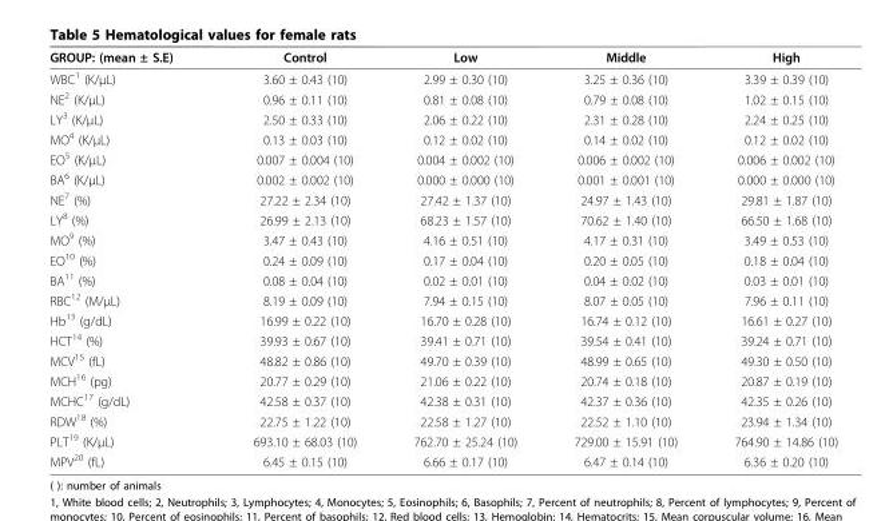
<table><thead><tr><td>GROUP: (mean ± S.E)</td><td>Control</td><td>Low</td><td>Middle</td><td>High</td></tr></thead><tbody><tr><td>WBC<sup>1</sup> (K/μL)</td><td>3.60 ± 0.43 (10)</td><td>2.99 ± 0.30 (10)</td><td>3.25 ± 0.36 (10)</td><td>3.39 ± 0.39 (10)</td></tr><tr><td>NE<sup>2</sup> (K/μL)</td><td>0.96 ± 0.11 (10)</td><td>0.81 ± 0.08 (10)</td><td>0.79 ± 0.08 (10)</td><td>1.02 ± 0.15 (10)</td></tr><tr><td>LY<sup>3</sup> (K/μL)</td><td>2.50 ± 0.33 (10)</td><td>2.06 ± 0.22 (10)</td><td>2.31 ± 0.28 (10)</td><td>2.24 ± 0.25 (10)</td></tr><tr><td>MO<sup>4</sup> (K/μL)</td><td>0.13 ± 0.03 (10)</td><td>0.12 ± 0.02 (10)</td><td>0.14 ± 0.02 (10)</td><td>0.12 ± 0.02 (10)</td></tr><tr><td>EO<sup>5</sup> (K/μL)</td><td>0.007 ± 0.004 (10)</td><td>0.004 ± 0.002 (10)</td><td>0.006 ± 0.002 (10)</td><td>0.006 ± 0.002 (10)</td></tr><tr><td>BA<sup>6</sup> (K/μL)</td><td>0.002 ± 0.002 (10)</td><td>0.000 ± 0.000 (10)</td><td>0.001 ± 0.001 (10)</td><td>0.000 ± 0.000 (10)</td></tr><tr><td>NE<sup>7</sup> (%)</td><td>27.22 ± 2.34 (10)</td><td>27.42 ± 1.37 (10)</td><td>24.97 ± 1.43 (10)</td><td>29.81 ± 1.87 (10)</td></tr><tr><td>LY<sup>8</sup> (%)</td><td>26.99 ± 2.13 (10)</td><td>68.23 ± 1.57 (10)</td><td>70.62 ± 1.40 (10)</td><td>66.50 ± 1.68 (10)</td></tr><tr><td>MO<sup>9</sup> (%)</td><td>3.47 ± 0.43 (10)</td><td>4.16 ± 0.51 (10)</td><td>4.17 ± 0.31 (10)</td><td>3.49 ± 0.53 (10)</td></tr><tr><td>EO<sup>10</sup> (%)</td><td>0.24 ± 0.09 (10)</td><td>0.17 ± 0.04 (10)</td><td>0.20 ± 0.05 (10)</td><td>0.18 ± 0.04 (10)</td></tr><tr><td>BA<sup>11</sup> (%)</td><td>0.08 ± 0.04 (10)</td><td>0.02 ± 0.01 (10)</td><td>0.04 ± 0.02 (10)</td><td>0.03 ± 0.01 (10)</td></tr><tr><td>RBC<sup>12</sup> (M/μL)</td><td>8.19 ± 0.09 (10)</td><td>7.94 ± 0.15 (10)</td><td>8.07 ± 0.05 (10)</td><td>7.96 ± 0.11 (10)</td></tr><tr><td>Hb<sup>13</sup> (g/dL)</td><td>16.99 ± 0.22 (10)</td><td>16.70 ± 0.28 (10)</td><td>16.74 ± 0.12 (10)</td><td>16.61 ± 0.27 (10)</td></tr><tr><td>HCT<sup>14</sup> (%)</td><td>39.93 ± 0.67 (10)</td><td>39.41 ± 0.71 (10)</td><td>39.54 ± 0.41 (10)</td><td>39.24 ± 0.71 (10)</td></tr><tr><td>MCV<sup>15</sup> (fL)</td><td>48.82 ± 0.86 (10)</td><td>49.70 ± 0.39 (10)</td><td>48.99 ± 0.65 (10)</td><td>49.30 ± 0.50 (10)</td></tr><tr><td>MCH<sup>16</sup> (pg)</td><td>20.77 ± 0.29 (10)</td><td>21.06 ± 0.22 (10)</td><td>20.74 ± 0.18 (10)</td><td>20.87 ± 0.19 (10)</td></tr><tr><td>MCHC<sup>17</sup> (g/dL)</td><td>42.58 ± 0.37 (10)</td><td>42.38 ± 0.31 (10)</td><td>42.37 ± 0.36 (10)</td><td>42.35 ± 0.26 (10)</td></tr><tr><td>RDW<sup>18</sup> (%)</td><td>22.75 ± 1.22 (10)</td><td>22.58 ± 1.27 (10)</td><td>22.52 ± 1.10 (10)</td><td>23.94 ± 1.34 (10)</td></tr><tr><td>PLT<sup>19</sup> (K/μL)</td><td>693.10 ± 68.03 (10)</td><td>762.70 ± 25.24 (10)</td><td>729.00 ± 15.91 (10)</td><td>764.90 ± 14.86 (10)</td></tr><tr><td>MPV<sup>20</sup> (fL)</td><td>6.45 ± 0.15 (10)</td><td>6.66 ± 0.17 (10)</td><td>6.47 ± 0.14 (10)</td><td>6.36 ± 0.20 (10)</td></tr></tbody></table>